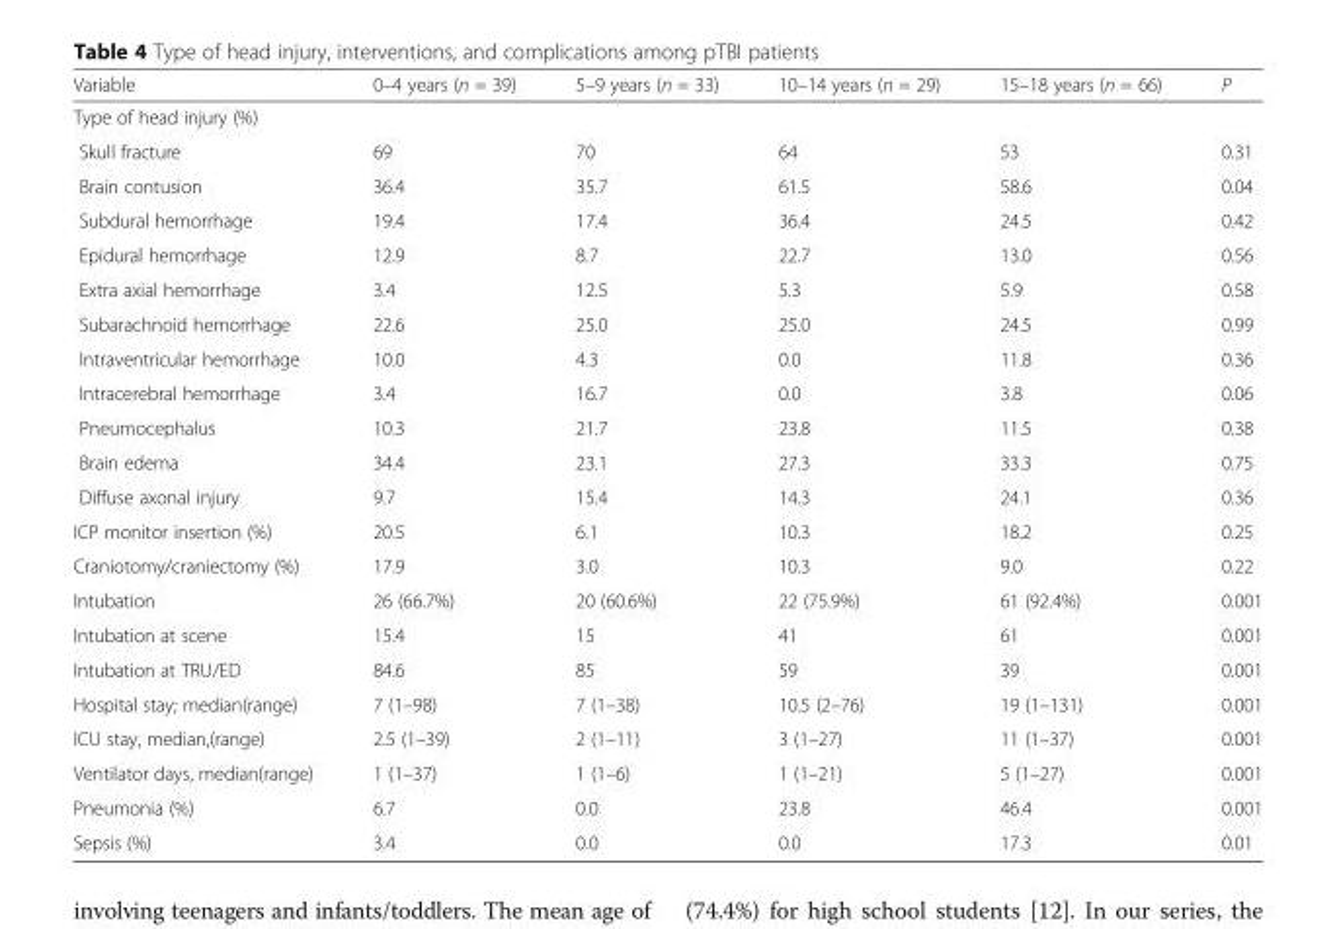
<table><thead><tr><td>Variable</td><td>0–4 years (n = 39)</td><td>5–9 years (n = 33)</td><td>10–14 years (n = 29)</td><td>15–18 years (n = 66)</td><td>P</td></tr></thead><tbody><tr><td colspan="6">Type of head injury (%)</td></tr><tr><td>Skull fracture</td><td>69</td><td>70</td><td>64</td><td>53</td><td>0.31</td></tr><tr><td>Brain contusion</td><td>36.4</td><td>35.7</td><td>61.5</td><td>58.6</td><td>0.04</td></tr><tr><td>Subdural hemorrhage</td><td>19.4</td><td>17.4</td><td>36.4</td><td>24.5</td><td>0.42</td></tr><tr><td>Epidural hemorrhage</td><td>12.9</td><td>8.7</td><td>22.7</td><td>13.0</td><td>0.56</td></tr><tr><td>Extra axial hemorrhage</td><td>3.4</td><td>12.5</td><td>5.3</td><td>5.9</td><td>0.58</td></tr><tr><td>Subarachnoid hemorrhage</td><td>22.6</td><td>25.0</td><td>25.0</td><td>24.5</td><td>0.99</td></tr><tr><td>Intraventricular hemorrhage</td><td>10.0</td><td>4.3</td><td>0.0</td><td>11.8</td><td>0.36</td></tr><tr><td>Intracerebral hemorrhage</td><td>3.4</td><td>16.7</td><td>0.0</td><td>3.8</td><td>0.06</td></tr><tr><td>Pneumocephalus</td><td>10.3</td><td>21.7</td><td>23.8</td><td>11.5</td><td>0.38</td></tr><tr><td>Brain edema</td><td>34.4</td><td>23.1</td><td>27.3</td><td>33.3</td><td>0.75</td></tr><tr><td>Diffuse axonal injury</td><td>9.7</td><td>15.4</td><td>14.3</td><td>24.1</td><td>0.36</td></tr><tr><td>ICP monitor insertion (%)</td><td>20.5</td><td>6.1</td><td>10.3</td><td>18.2</td><td>0.25</td></tr><tr><td>Craniotomy/craniectomy (%)</td><td>17.9</td><td>3.0</td><td>10.3</td><td>9.0</td><td>0.22</td></tr><tr><td>Intubation</td><td>26 (66.7%)</td><td>20 (60.6%)</td><td>22 (75.9%)</td><td>61 (92.4%)</td><td>0.001</td></tr><tr><td>Intubation at scene</td><td>15.4</td><td>15</td><td>41</td><td>61</td><td>0.001</td></tr><tr><td>Intubation at TRU/ED</td><td>84.6</td><td>85</td><td>59</td><td>39</td><td>0.001</td></tr><tr><td>Hospital stay; median(range)</td><td>7 (1–98)</td><td>7 (1–38)</td><td>10.5 (2–76)</td><td>19 (1–131)</td><td>0.001</td></tr><tr><td>ICU stay, median,(range)</td><td>2.5 (1–39)</td><td>2 (1–11)</td><td>3 (1–27)</td><td>11 (1–37)</td><td>0.001</td></tr><tr><td>Ventilator days, median(range)</td><td>1 (1–37)</td><td>1 (1–6)</td><td>1 (1–21)</td><td>5 (1–27)</td><td>0.001</td></tr><tr><td>Pneumonia (%)</td><td>6.7</td><td>0.0</td><td>23.8</td><td>46.4</td><td>0.001</td></tr><tr><td>Sepsis (%)</td><td>3.4</td><td>0.0</td><td>0.0</td><td>17.3</td><td>0.01</td></tr></tbody></table>